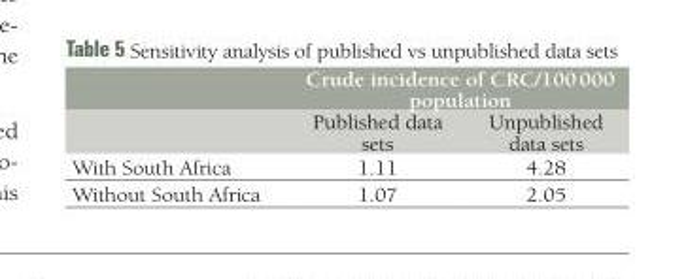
<table><thead><tr><td rowspan="2"></td><td colspan="2">Crude incidence of CRC/100 000 population</td></tr><tr><td>Published data sets</td><td>Unpublished data sets</td></tr></thead><tbody><tr><td>With South Africa</td><td>1.11</td><td>4.28</td></tr><tr><td>Without South Africa</td><td>1.07</td><td>2.05</td></tr></tbody></table>